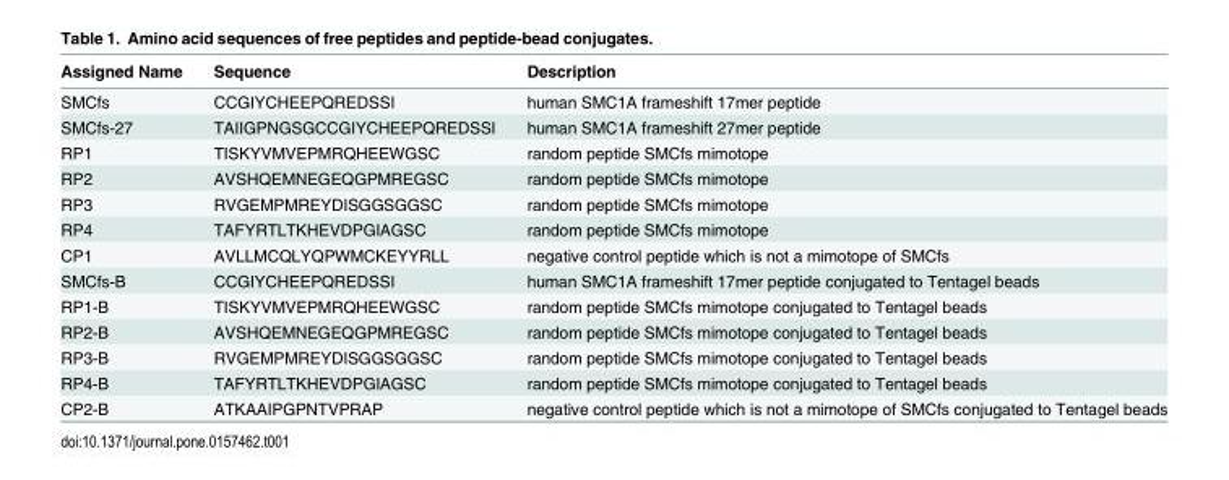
<table><thead><tr><td>Assigned Name</td><td>Sequence</td><td>Description</td></tr></thead><tbody><tr><td>SMCfs</td><td>CCGIYCHEEPQREDSSI</td><td>human SMC1A frameshift 17mer peptide</td></tr><tr><td>SMCfs-27</td><td>TAIIGPNGSGCCGIYCHEEPQREDSSI</td><td>human SMC1A frameshift 27mer peptide</td></tr><tr><td>RP1</td><td>TISKYVMVEPMRQHEEWGSC</td><td>random peptide SMCfs mimotope</td></tr><tr><td>RP2</td><td>AVSHQEMNEGEQGPMREGSC</td><td>random peptide SMCfs mimotope</td></tr><tr><td>RP3</td><td>RVGEMPMREYDISGGSGGSC</td><td>random peptide SMCfs mimotope</td></tr><tr><td>RP4</td><td>TAFYRTLTKHEVDPGIAGSC</td><td>random peptide SMCfs mimotope</td></tr><tr><td>CP1</td><td>AVLLMCQLYQPWMCKEYYRLL</td><td>negative control peptide which is not a mimotope of SMCfs</td></tr><tr><td>SMCfs-B</td><td>CCGIYCHEEPQREDSSI</td><td>human SMC1A frameshift 17mer peptide conjugated to Tentagel beads</td></tr><tr><td>RP1-B</td><td>TISKYVMVEPMRQHEEWGSC</td><td>random peptide SMCfs mimotope conjugated to Tentagel beads</td></tr><tr><td>RP2-B</td><td>AVSHQEMNEGEQGPMREGSC</td><td>random peptide SMCfs mimotope conjugated to Tentagel beads</td></tr><tr><td>RP3-B</td><td>RVGEMPMREYDISGGSGGSC</td><td>random peptide SMCfs mimotope conjugated to Tentagel beads</td></tr><tr><td>RP4-B</td><td>TAFYRTLTKHEVDPGIAGSC</td><td>random peptide SMCfs mimotope conjugated to Tentagel beads</td></tr><tr><td>CP2-B</td><td>ATKAAIPGPNTVPRAP</td><td>negative control peptide which is not a mimotope of SMCfs conjugated to Tentagel beads</td></tr></tbody></table>